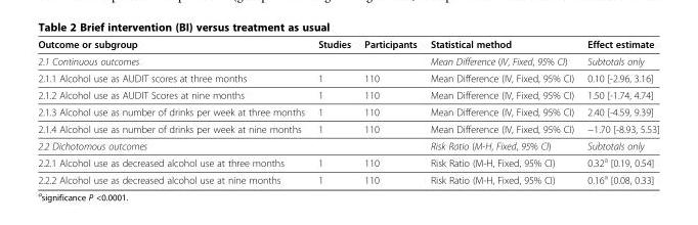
<table><thead><tr><td>Outcome or subgroup</td><td>Studies</td><td>Participants</td><td>Statistical method</td><td>Effect estimate</td></tr></thead><tbody><tr><td>2.1 Continuous outcomes</td><td></td><td></td><td>Mean Difference (IV, Fixed, 95% CI)</td><td>Subtotals only</td></tr><tr><td>2.1.1 Alcohol use as AUDIT scores at three months</td><td>1</td><td>110</td><td>Mean Difference (IV, Fixed, 95% CI)</td><td>0.10 [-2.96, 3.16]</td></tr><tr><td>2.1.2 Alcohol use as AUDIT Scores at nine months</td><td>1</td><td>110</td><td>Mean Difference (IV, Fixed, 95% CI)</td><td>1.50 [-1.74, 4.74]</td></tr><tr><td>2.1.3 Alcohol use as number of drinks per week at three months</td><td>1</td><td>110</td><td>Mean Difference (IV, Fixed, 95% CI)</td><td>2.40 [-4.59, 9.39]</td></tr><tr><td>2.1.4 Alcohol use as number of drinks per week at nine months</td><td>1</td><td>110</td><td>Mean Difference (IV, Fixed, 95% CI)</td><td>−1.70 [-8.93, 5.53]</td></tr><tr><td>2.2 Dichotomous outcomes</td><td></td><td></td><td>Risk Ratio (M-H, Fixed, 95% CI)</td><td>Subtotals only</td></tr><tr><td>2.2.1 Alcohol use as decreased alcohol use at three months</td><td>1</td><td>110</td><td>Risk Ratio (M-H, Fixed, 95% CI)</td><td>0.32<sup>a</sup> [0.19, 0.54]</td></tr><tr><td>2.2.2 Alcohol use as decreased alcohol use at nine months</td><td>1</td><td>110</td><td>Risk Ratio (M-H, Fixed, 95% CI)</td><td>0.16<sup>a</sup> [0.08, 0.33]</td></tr></tbody></table>